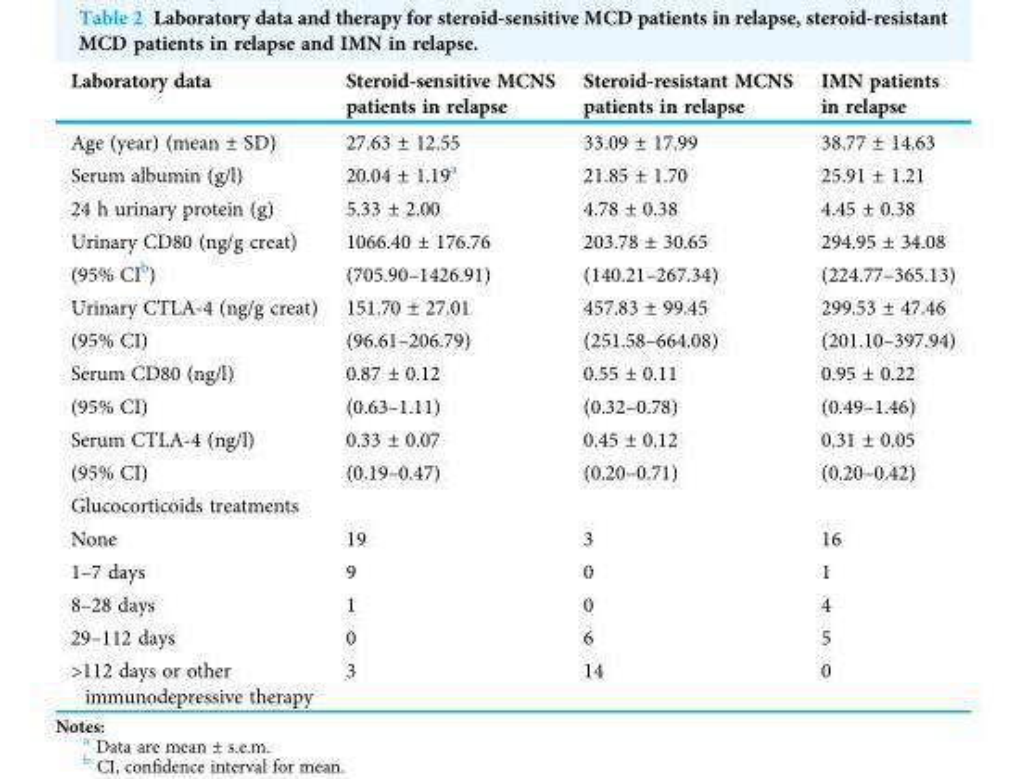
<table><thead><tr><td>Laboratory data</td><td>Steroid-sensitive MCNS patients in relapse</td><td>Steroid-resistant MCNS patients in relapse</td><td>IMN patients in relapse</td></tr></thead><tbody><tr><td>Age (year) (mean ± SD)</td><td>27.63 ± 12.55</td><td>33.09 ± 17.99</td><td>38.77 ± 14.63</td></tr><tr><td>Serum albumin (g/l)</td><td>20.04 ± 1.19<sup>a</sup></td><td>21.85 ± 1.70</td><td>25.91 ± 1.21</td></tr><tr><td>24 h urinary protein (g)</td><td>5.33 ± 2.00</td><td>4.78 ± 0.38</td><td>4.45 ± 0.38</td></tr><tr><td>Urinary CD80 (ng/g creat)</td><td>1066.40 ± 176.76</td><td>203.78 ± 30.65</td><td>294.95 ± 34.08</td></tr><tr><td>(95% CI<sup>b</sup>)</td><td>(705.90–1426.91)</td><td>(140.21–267.34)</td><td>(224.77–365.13)</td></tr><tr><td>Urinary CTLA-4 (ng/g creat)</td><td>151.70 ± 27.01</td><td>457.83 ± 99.45</td><td>299.53 ± 47.46</td></tr><tr><td>(95% CI)</td><td>(96.61–206.79)</td><td>(251.58–664.08)</td><td>(201.10–397.94)</td></tr><tr><td>Serum CD80 (ng/l)</td><td>0.87 ± 0.12</td><td>0.55 ± 0.11</td><td>0.95 ± 0.22</td></tr><tr><td>(95% CI)</td><td>(0.63–1.11)</td><td>(0.32–0.78)</td><td>(0.49–1.46)</td></tr><tr><td>Serum CTLA-4 (ng/l)</td><td>0.33 ± 0.07</td><td>0.45 ± 0.12</td><td>0.31 ± 0.05</td></tr><tr><td>(95% CI)</td><td>(0.19–0.47)</td><td>(0.20–0.71)</td><td>(0.20–0.42)</td></tr><tr><td colspan="4">Glucocorticoids treatments</td></tr><tr><td>None</td><td>19</td><td>3</td><td>16</td></tr><tr><td>1–7 days</td><td>9</td><td>0</td><td>1</td></tr><tr><td>8–28 days</td><td>1</td><td>0</td><td>4</td></tr><tr><td>29–112 days</td><td>0</td><td>6</td><td>5</td></tr><tr><td>&gt;112 days or other immunodepressive therapy</td><td>3</td><td>14</td><td>0</td></tr></tbody></table>